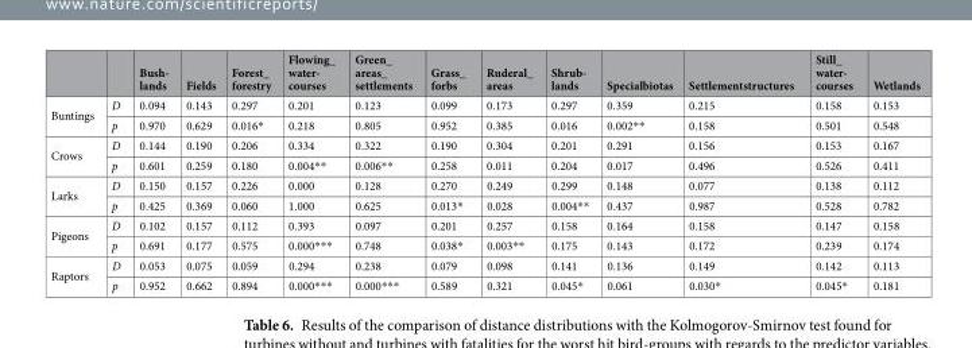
<table><thead><tr><td></td><td></td><td>Bush- lands</td><td>Fields</td><td>Forest_ forestry</td><td>Flowing_ water- courses</td><td>Green_ areas_ settlements</td><td>Grass_ forbs</td><td>Ruderal_ areas</td><td>Shrub- lands</td><td>Specialbiotas</td><td>Settlementstructures</td><td>Still_ water- courses</td><td>Wetlands</td></tr></thead><tbody><tr><td rowspan="2">Buntings</td><td>D</td><td>0.094</td><td>0.143</td><td>0.297</td><td>0.201</td><td>0.123</td><td>0.099</td><td>0.173</td><td>0.297</td><td>0.359</td><td>0.215</td><td>0.158</td><td>0.153</td></tr><tr><td>p</td><td>0.970</td><td>0.629</td><td>0.016*</td><td>0.218</td><td>0.805</td><td>0.952</td><td>0.385</td><td>0.016</td><td>0.002**</td><td>0.158</td><td>0.501</td><td>0.548</td></tr><tr><td rowspan="2">Crows</td><td>D</td><td>0.144</td><td>0.190</td><td>0.206</td><td>0.334</td><td>0.322</td><td>0.190</td><td>0.304</td><td>0.201</td><td>0.291</td><td>0.156</td><td>0.153</td><td>0.167</td></tr><tr><td>p</td><td>0.601</td><td>0.259</td><td>0.180</td><td>0.004**</td><td>0.006**</td><td>0.258</td><td>0.011</td><td>0.204</td><td>0.017</td><td>0.496</td><td>0.526</td><td>0.411</td></tr><tr><td rowspan="2">Larks</td><td>D</td><td>0.150</td><td>0.157</td><td>0.226</td><td>0.000</td><td>0.128</td><td>0.270</td><td>0.249</td><td>0.299</td><td>0.148</td><td>0.077</td><td>0.138</td><td>0.112</td></tr><tr><td>p</td><td>0.425</td><td>0.369</td><td>0.060</td><td>1.000</td><td>0.625</td><td>0.013*</td><td>0.028</td><td>0.004**</td><td>0.437</td><td>0.987</td><td>0.528</td><td>0.782</td></tr><tr><td rowspan="2">Pigeons</td><td>D</td><td>0.102</td><td>0.157</td><td>0.112</td><td>0.393</td><td>0.097</td><td>0.201</td><td>0.257</td><td>0.158</td><td>0.164</td><td>0.158</td><td>0.147</td><td>0.158</td></tr><tr><td>p</td><td>0.691</td><td>0.177</td><td>0.575</td><td>0.000***</td><td>0.748</td><td>0.038*</td><td>0.003**</td><td>0.175</td><td>0.143</td><td>0.172</td><td>0.239</td><td>0.174</td></tr><tr><td rowspan="2">Raptors</td><td>D</td><td>0.053</td><td>0.075</td><td>0.059</td><td>0.294</td><td>0.238</td><td>0.079</td><td>0.098</td><td>0.141</td><td>0.136</td><td>0.149</td><td>0.142</td><td>0.113</td></tr><tr><td>p</td><td>0.952</td><td>0.662</td><td>0.894</td><td>0.000***</td><td>0.000***</td><td>0.589</td><td>0.321</td><td>0.045*</td><td>0.061</td><td>0.030*</td><td>0.045*</td><td>0.181</td></tr></tbody></table>